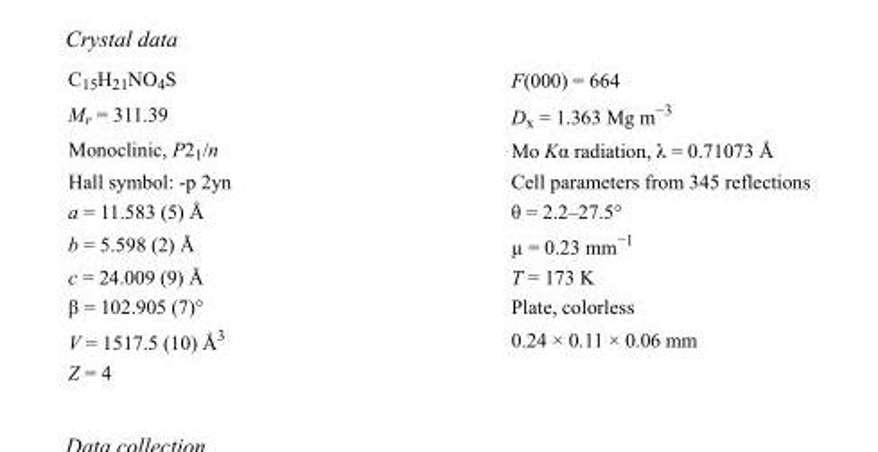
<table><tbody><tr><td>C<sub>15</sub>H<sub>21</sub>NO<sub>4</sub>S</td><td>F(000) = 664</td></tr><tr><td>M<sub>r</sub> = 311.39</td><td>D<sub>x</sub> = 1.363 Mg m<sup>−3</sup></td></tr><tr><td>Monoclinic, P2<sub>1</sub>/n</td><td>Mo Kα radiation, λ = 0.71073 Å</td></tr><tr><td>Hall symbol: -p 2yn</td><td>Cell parameters from 345 reflections</td></tr><tr><td>a = 11.583 (5) Å</td><td>θ = 2.2–27.5°</td></tr><tr><td>b = 5.598 (2) Å</td><td>µ = 0.23 mm<sup>−1</sup></td></tr><tr><td>c = 24.009 (9) Å</td><td>T = 173 K</td></tr><tr><td>β = 102.905 (7)°</td><td>Plate, colorless</td></tr><tr><td>V = 1517.5 (10) Å<sup>3</sup></td><td>0.24 × 0.11 × 0.06 mm</td></tr><tr><td>Z = 4</td><td></td></tr></tbody></table>